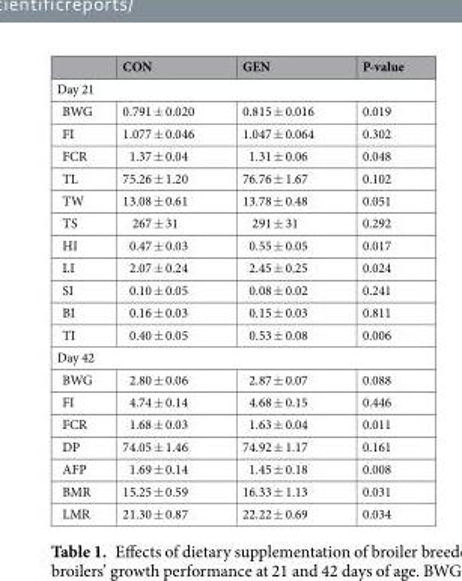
<table><thead><tr><td></td><td>CON</td><td>GEN</td><td>P-value</td></tr></thead><tbody><tr><td colspan="4">Day 21</td></tr><tr><td>BWG</td><td>0.791 ± 0.020</td><td>0.815 ± 0.016</td><td>0.019</td></tr><tr><td>FI</td><td>1.077 ± 0.046</td><td>1.047 ± 0.064</td><td>0.302</td></tr><tr><td>FCR</td><td>1.37 ± 0.04</td><td>1.31 ± 0.06</td><td>0.048</td></tr><tr><td>TL</td><td>75.26 ± 1.20</td><td>76.76 ± 1.67</td><td>0.102</td></tr><tr><td>TW</td><td>13.08 ± 0.61</td><td>13.78 ± 0.48</td><td>0.051</td></tr><tr><td>TS</td><td>267 ± 31</td><td>291 ± 31</td><td>0.292</td></tr><tr><td>HI</td><td>0.47 ± 0.03</td><td>0.55 ± 0.05</td><td>0.017</td></tr><tr><td>LI</td><td>2.07 ± 0.24</td><td>2.45 ± 0.25</td><td>0.024</td></tr><tr><td>SI</td><td>0.10 ± 0.05</td><td>0.08 ± 0.02</td><td>0.241</td></tr><tr><td>BI</td><td>0.16 ± 0.03</td><td>0.15 ± 0.03</td><td>0.811</td></tr><tr><td>TI</td><td>0.40 ± 0.05</td><td>0.53 ± 0.08</td><td>0.006</td></tr><tr><td colspan="4">Day 42</td></tr><tr><td>BWG</td><td>2.80 ± 0.06</td><td>2.87 ± 0.07</td><td>0.088</td></tr><tr><td>FI</td><td>4.74 ± 0.14</td><td>4.68 ± 0.15</td><td>0.446</td></tr><tr><td>FCR</td><td>1.68 ± 0.03</td><td>1.63 ± 0.04</td><td>0.011</td></tr><tr><td>DP</td><td>74.05 ± 1.46</td><td>74.92 ± 1.17</td><td>0.161</td></tr><tr><td>AFP</td><td>1.69 ± 0.14</td><td>1.45 ± 0.18</td><td>0.008</td></tr><tr><td>BMR</td><td>15.25 ± 0.59</td><td>16.33 ± 1.13</td><td>0.031</td></tr><tr><td>LMR</td><td>21.30 ± 0.87</td><td>22.22 ± 0.69</td><td>0.034</td></tr></tbody></table>